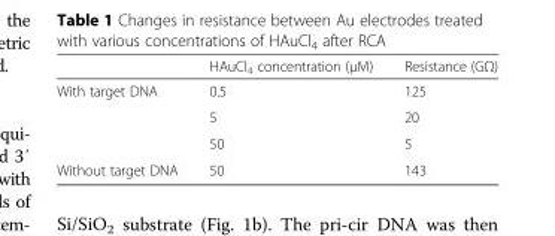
<table><thead><tr><td></td><td>HAuCl<sub>4</sub> concentration (μM)</td><td>Resistance (GΩ)</td></tr></thead><tbody><tr><td rowspan="3">With target DNA</td><td>0.5</td><td>125</td></tr><tr><td>5</td><td>20</td></tr><tr><td>50</td><td>5</td></tr><tr><td>Without target DNA</td><td>50</td><td>143</td></tr></tbody></table>